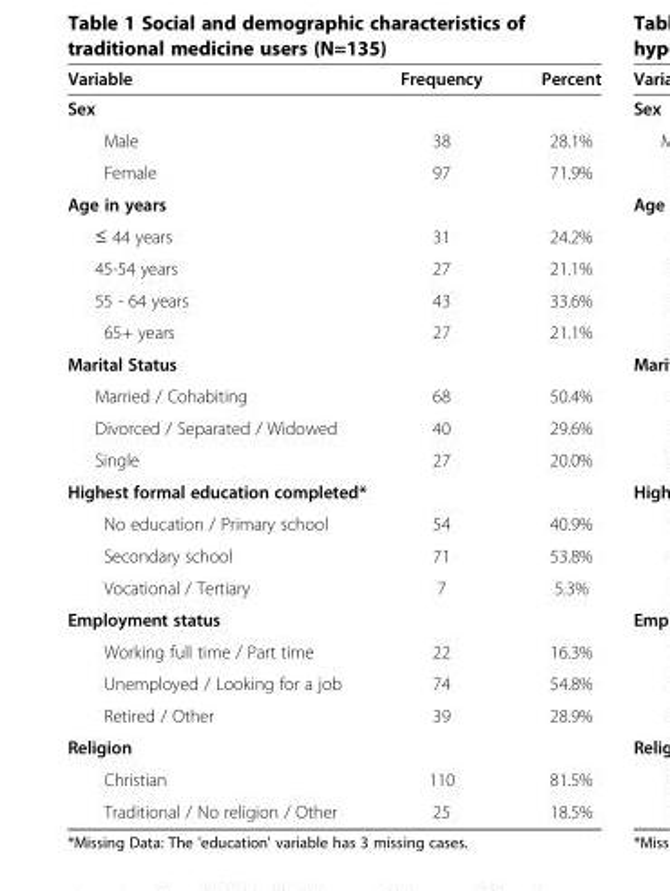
<table><thead><tr><td>Variable</td><td>Frequency</td><td>Percent</td></tr></thead><tbody><tr><td colspan="3">Sex</td></tr><tr><td>Male</td><td>38</td><td>28.1%</td></tr><tr><td>Female</td><td>97</td><td>71.9%</td></tr><tr><td colspan="3">Age in years</td></tr><tr><td>≤ 44 years</td><td>31</td><td>24.2%</td></tr><tr><td>45-54 years</td><td>27</td><td>21.1%</td></tr><tr><td>55 - 64 years</td><td>43</td><td>33.6%</td></tr><tr><td>65+ years</td><td>27</td><td>21.1%</td></tr><tr><td colspan="3">Marital Status</td></tr><tr><td>Married / Cohabiting</td><td>68</td><td>50.4%</td></tr><tr><td>Divorced / Separated / Widowed</td><td>40</td><td>29.6%</td></tr><tr><td>Single</td><td>27</td><td>20.0%</td></tr><tr><td colspan="3">Highest formal education completed*</td></tr><tr><td>No education / Primary school</td><td>54</td><td>40.9%</td></tr><tr><td>Secondary school</td><td>71</td><td>53.8%</td></tr><tr><td>Vocational / Tertiary</td><td>7</td><td>5.3%</td></tr><tr><td colspan="3">Employment status</td></tr><tr><td>Working full time / Part time</td><td>22</td><td>16.3%</td></tr><tr><td>Unemployed / Looking for a job</td><td>74</td><td>54.8%</td></tr><tr><td>Retired / Other</td><td>39</td><td>28.9%</td></tr><tr><td colspan="3">Religion</td></tr><tr><td>Christian</td><td>110</td><td>81.5%</td></tr><tr><td>Traditional / No religion / Other</td><td>25</td><td>18.5%</td></tr></tbody></table>